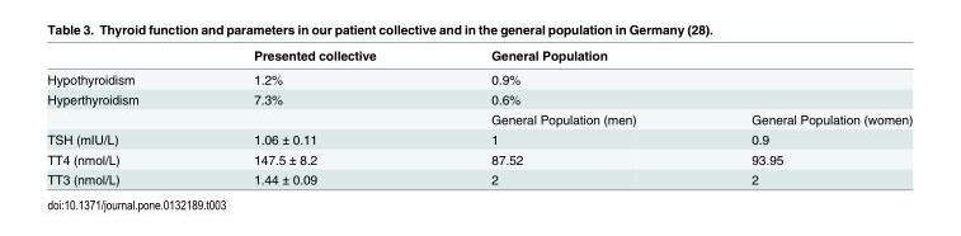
<table><thead><tr><td rowspan="4">Hypothyroidism Hyperthyroidism</td><td rowspan="4">Presented collective 1.2% 7.3%</td><td rowspan="3" colspan="2">General Population 0.9% 0.6%</td></tr><tr></tr><tr></tr><tr><td>General Population (men)</td><td>General Population (women)</td></tr></thead><tbody><tr><td>TSH (mIU/L)</td><td>1.06 ± 0.11</td><td>1</td><td>0.9</td></tr><tr><td>TT4 (nmol/L)</td><td>147.5 ± 8.2</td><td>87.52</td><td>93.95</td></tr><tr><td>TT3 (nmol/L)</td><td>1.44 ± 0.09</td><td>2</td><td>2</td></tr></tbody></table>